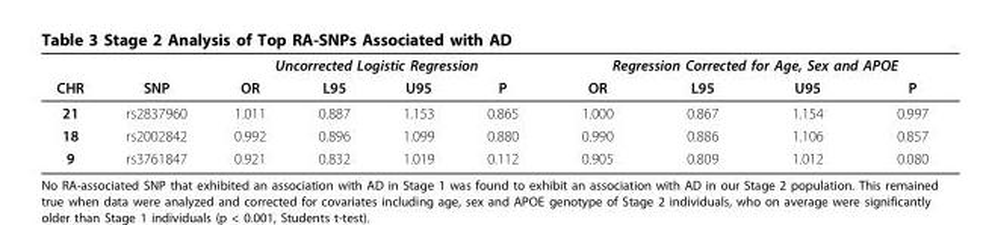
<table><thead><tr><td rowspan="2">CHR</td><td rowspan="2">SNP</td><td colspan="4">Uncorrected Logistic Regression</td><td colspan="4">Regression Corrected for Age, Sex and APOE</td></tr><tr><td>OR</td><td>L95</td><td>U95</td><td>P</td><td>OR</td><td>L95</td><td>U95</td><td>P</td></tr></thead><tbody><tr><td>21</td><td>rs2837960</td><td>1.011</td><td>0.887</td><td>1.153</td><td>0.865</td><td>1.000</td><td>0.867</td><td>1.154</td><td>0.997</td></tr><tr><td>18</td><td>rs2002842</td><td>0.992</td><td>0.896</td><td>1.099</td><td>0.880</td><td>0.990</td><td>0.886</td><td>1.106</td><td>0.857</td></tr><tr><td>9</td><td>rs3761847</td><td>0.921</td><td>0.832</td><td>1.019</td><td>0.112</td><td>0.905</td><td>0.809</td><td>1.012</td><td>0.080</td></tr></tbody></table>